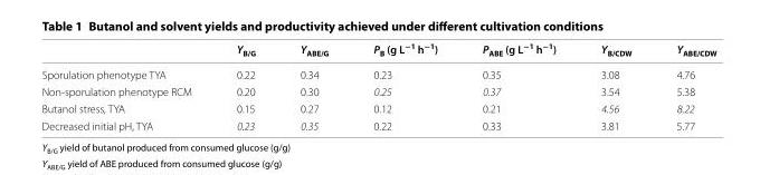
<table><thead><tr><td></td><td>Y<sub>B/G</sub></td><td>Y<sub>ABE/G</sub></td><td>P<sub>B</sub> (g L<sup>−1</sup> h<sup>−1</sup>)</td><td>P<sub>ABE</sub> (g L<sup>−1</sup> h<sup>−1</sup>)</td><td>Y<sub>B/CDW</sub></td><td>Y<sub>ABE/CDW</sub></td></tr></thead><tbody><tr><td>Sporulation phenotype TYA</td><td>0.22</td><td>0.34</td><td>0.23</td><td>0.35</td><td>3.08</td><td>4.76</td></tr><tr><td>Non-sporulation phenotype RCM</td><td>0.20</td><td>0.30</td><td>0.25</td><td>0.37</td><td>3.54</td><td>5.38</td></tr><tr><td>Butanol stress, TYA</td><td>0.15</td><td>0.27</td><td>0.12</td><td>0.21</td><td>4.56</td><td>8.22</td></tr><tr><td>Decreased initial pH, TYA</td><td>0.23</td><td>0.35</td><td>0.22</td><td>0.33</td><td>3.81</td><td>5.77</td></tr></tbody></table>